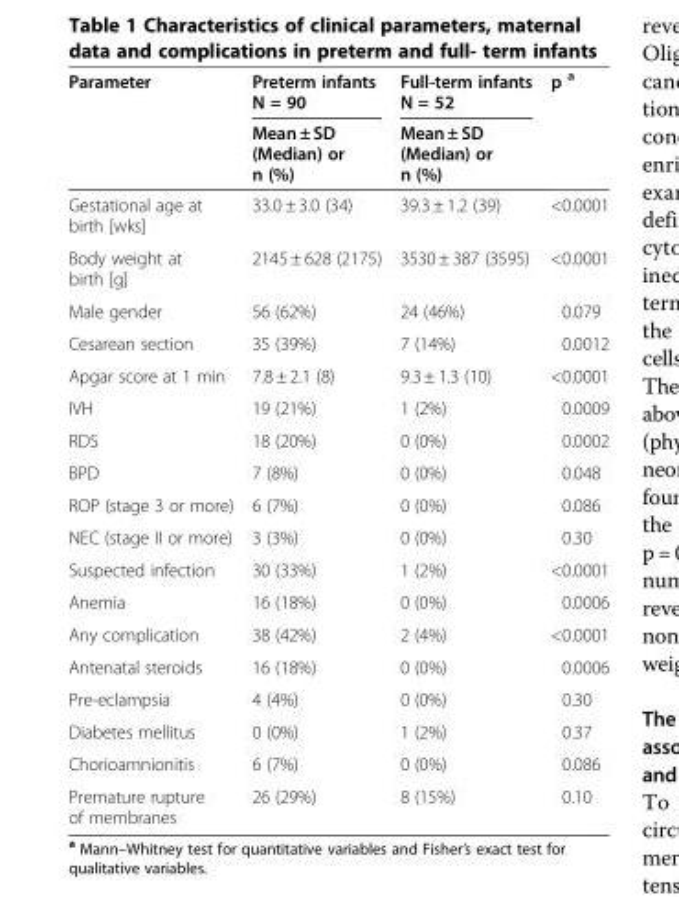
<table><thead><tr><td rowspan="2">Parameter</td><td rowspan="2">Preterm infants N = 90 Mean ± SD (Median) or n (%)</td><td rowspan="2">Full-term infants N = 52 Mean ± SD (Median) or n (%)</td><td rowspan="2">p <sup>a</sup></td></tr><tr></tr></thead><tbody><tr><td>Gestational age at birth [wks]</td><td>33.0 ± 3.0 (34)</td><td>39.3 ± 1.2 (39)</td><td>&lt;0.0001</td></tr><tr><td>Body weight at birth [g]</td><td>2145 ± 628 (2175)</td><td>3530 ± 387 (3595)</td><td>&lt;0.0001</td></tr><tr><td>Male gender</td><td>56 (62%)</td><td>24 (46%)</td><td>0.079</td></tr><tr><td>Cesarean section</td><td>35 (39%)</td><td>7 (14%)</td><td>0.0012</td></tr><tr><td>Apgar score at 1 min</td><td>7.8 ± 2.1 (8)</td><td>9.3 ± 1.3 (10)</td><td>&lt;0.0001</td></tr><tr><td>IVH</td><td>19 (21%)</td><td>1 (2%)</td><td>0.0009</td></tr><tr><td>RDS</td><td>18 (20%)</td><td>0 (0%)</td><td>0.0002</td></tr><tr><td>BPD</td><td>7 (8%)</td><td>0 (0%)</td><td>0.048</td></tr><tr><td>ROP (stage 3 or more)</td><td>6 (7%)</td><td>0 (0%)</td><td>0.086</td></tr><tr><td>NEC (stage II or more)</td><td>3 (3%)</td><td>0 (0%)</td><td>0.30</td></tr><tr><td>Suspected infection</td><td>30 (33%)</td><td>1 (2%)</td><td>&lt;0.0001</td></tr><tr><td>Anemia</td><td>16 (18%)</td><td>0 (0%)</td><td>0.0006</td></tr><tr><td>Any complication</td><td>38 (42%)</td><td>2 (4%)</td><td>&lt;0.0001</td></tr><tr><td>Antenatal steroids</td><td>16 (18%)</td><td>0 (0%)</td><td>0.0006</td></tr><tr><td>Pre-eclampsia</td><td>4 (4%)</td><td>0 (0%)</td><td>0.30</td></tr><tr><td>Diabetes mellitus</td><td>0 (0%)</td><td>1 (2%)</td><td>0.37</td></tr><tr><td>Chorioamnionitis</td><td>6 (7%)</td><td>0 (0%)</td><td>0.086</td></tr><tr><td>Premature rupture of membranes</td><td>26 (29%)</td><td>8 (15%)</td><td>0.10</td></tr></tbody></table>